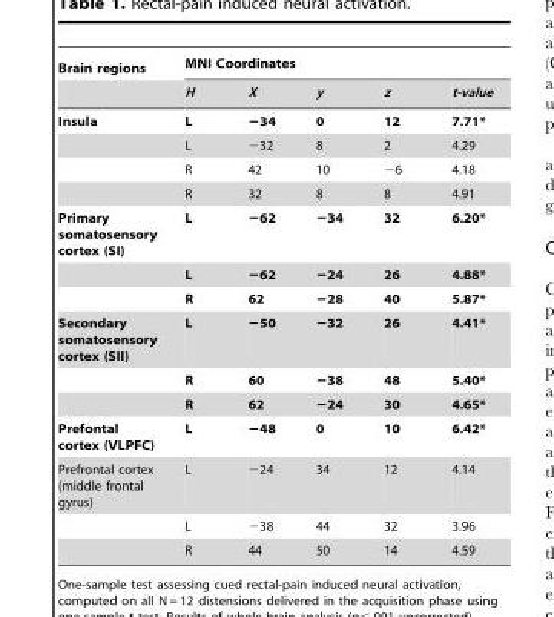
<table><thead><tr><td rowspan="2">Brain regions</td><td colspan="5">MNI Coordinates</td></tr><tr><td>H</td><td>X</td><td>y</td><td>z</td><td>t-value</td></tr></thead><tbody><tr><td rowspan="4">Insula</td><td>L</td><td>−34</td><td>0</td><td>12</td><td>7.71*</td></tr><tr><td>L</td><td>−32</td><td>8</td><td>2</td><td>4.29</td></tr><tr><td>R</td><td>42</td><td>10</td><td>−6</td><td>4.18</td></tr><tr><td>R</td><td>32</td><td>8</td><td>8</td><td>4.91</td></tr><tr><td rowspan="3">Primary somatosensory cortex (SI)</td><td>L</td><td>−62</td><td>−34</td><td>32</td><td>6.20*</td></tr><tr><td>L</td><td>−62</td><td>−24</td><td>26</td><td>4.88*</td></tr><tr><td>R</td><td>62</td><td>−28</td><td>40</td><td>5.87*</td></tr><tr><td rowspan="3">Secondary somatosensory cortex (SII)</td><td>L</td><td>−50</td><td>−32</td><td>26</td><td>4.41*</td></tr><tr><td>R</td><td>60</td><td>−38</td><td>48</td><td>5.40*</td></tr><tr><td>R</td><td>62</td><td>−24</td><td>30</td><td>4.65*</td></tr><tr><td>Prefontal cortex (VLPFC)</td><td>L</td><td>−48</td><td>0</td><td>10</td><td>6.42*</td></tr><tr><td rowspan="3">Prefrontal cortex (middle frontal gyrus)</td><td>L</td><td>−24</td><td>34</td><td>12</td><td>4.14</td></tr><tr><td>L</td><td>−38</td><td>44</td><td>32</td><td>3.96</td></tr><tr><td>R</td><td>44</td><td>50</td><td>14</td><td>4.59</td></tr></tbody></table>